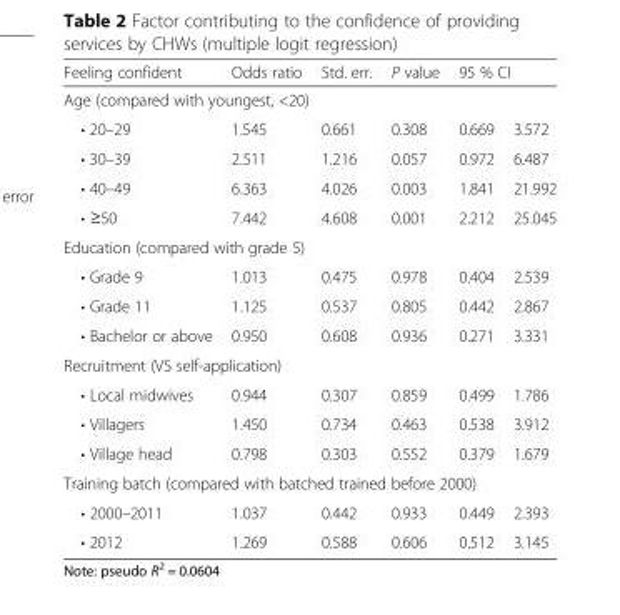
<table><thead><tr><td>Feeling confident</td><td>Odds ratio</td><td>Std. err.</td><td>P value</td><td colspan="2">95 % CI</td></tr><tr><td colspan="6">Age (compared with youngest, &lt;20)</td></tr><tr><td>• 20–29</td><td>1.545</td><td>0.661</td><td>0.308</td><td>0.669</td><td>3.572</td></tr></thead><tbody><tr><td>• 30–39</td><td>2.511</td><td>1.216</td><td>0.057</td><td>0.972</td><td>6.487</td></tr><tr><td>• 40–49</td><td>6.363</td><td>4.026</td><td>0.003</td><td>1.841</td><td>21.992</td></tr><tr><td>• ≥50</td><td>7.442</td><td>4.608</td><td>0.001</td><td>2.212</td><td>25.045</td></tr><tr><td colspan="6">Education (compared with grade 5)</td></tr><tr><td>• Grade 9</td><td>1.013</td><td>0.475</td><td>0.978</td><td>0.404</td><td>2.539</td></tr><tr><td>• Grade 11</td><td>1.125</td><td>0.537</td><td>0.805</td><td>0.442</td><td>2.867</td></tr><tr><td>• Bachelor or above</td><td>0.950</td><td>0.608</td><td>0.936</td><td>0.271</td><td>3.331</td></tr><tr><td colspan="6">Recruitment (VS self-application)</td></tr><tr><td>• Local midwives</td><td>0.944</td><td>0.307</td><td>0.859</td><td>0.499</td><td>1.786</td></tr><tr><td>• Villagers</td><td>1.450</td><td>0.734</td><td>0.463</td><td>0.538</td><td>3.912</td></tr><tr><td>• Village head</td><td>0.798</td><td>0.303</td><td>0.552</td><td>0.379</td><td>1.679</td></tr><tr><td colspan="6">Training batch (compared with batched trained before 2000)</td></tr><tr><td>• 2000–2011</td><td>1.037</td><td>0.442</td><td>0.933</td><td>0.449</td><td>2.393</td></tr><tr><td>• 2012</td><td>1.269</td><td>0.588</td><td>0.606</td><td>0.512</td><td>3.145</td></tr></tbody></table>